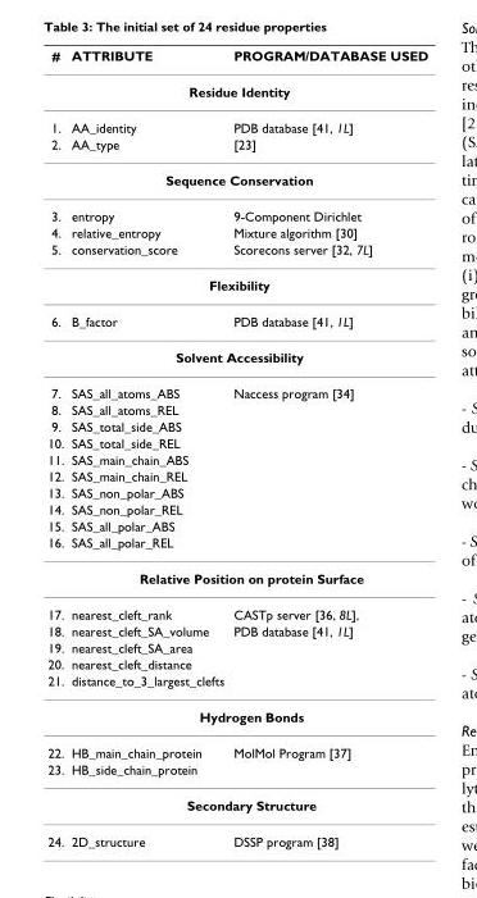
<table><thead><tr><td>#</td><td>ATTRIBUTE</td><td>PROGRAM/DATABASE USED</td></tr></thead><tbody><tr><td colspan="3">Residue Identity</td></tr><tr><td>1.</td><td>AA_identity</td><td>PDB database [41, 1L]</td></tr><tr><td>2.</td><td>AA_type</td><td>[23]</td></tr><tr><td colspan="3">Sequence Conservation</td></tr><tr><td>3.</td><td>entropy</td><td>9-Component Dirichlet</td></tr><tr><td>4.</td><td>relative_entropy</td><td>Mixture algorithm [30]</td></tr><tr><td>5.</td><td>conservation_score</td><td>Scorecons server [32, 7L]</td></tr><tr><td colspan="3">Flexibility</td></tr><tr><td>6.</td><td>B_factor</td><td>PDB database [41, 1L]</td></tr><tr><td colspan="3">Solvent Accessibility</td></tr><tr><td>7.</td><td>SAS_all_atoms_ABS</td><td>Naccess program [34]</td></tr><tr><td>8.</td><td>SAS_all_atoms_REL</td><td></td></tr><tr><td>9.</td><td>SAS_total_side_ABS</td><td></td></tr><tr><td>10.</td><td>SAS_total_side_REL</td><td></td></tr><tr><td>11.</td><td>SAS_main_chain_ABS</td><td></td></tr><tr><td>12.</td><td>SAS_main_chain_REL</td><td></td></tr><tr><td>13.</td><td>SAS_non_polar_ABS</td><td></td></tr><tr><td>14.</td><td>SAS_non_polar_REL</td><td></td></tr><tr><td>15.</td><td>SAS_all_polar_ABS</td><td></td></tr><tr><td rowspan="2">16.</td><td>SAS_all_polar_REL</td><td></td></tr><tr><td colspan="2">Relative Position on protein Surface</td></tr><tr><td>17.</td><td>nearest_cleft_rank</td><td>CASTp server [36, 8L],</td></tr><tr><td>18.</td><td>nearest_cleft_SA_volume</td><td>PDB database [41, 1L]</td></tr><tr><td>19.</td><td>nearest_cleft_SA_area</td><td></td></tr><tr><td>20.</td><td>nearest_cleft_distance</td><td></td></tr><tr><td rowspan="2">21.</td><td>distance_to_3_largest_clefts</td><td></td></tr><tr><td colspan="2">Hydrogen Bonds</td></tr><tr><td>22.</td><td>HB_main_chain_protein</td><td>MolMol Program [37]</td></tr><tr><td rowspan="2">23.</td><td>HB_side_chain_protein</td><td></td></tr><tr><td colspan="2">Secondary Structure</td></tr><tr><td>24.</td><td>2D_structure</td><td>DSSP program [38]</td></tr></tbody></table>